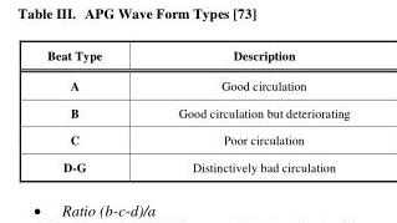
<table><thead><tr><td>Beat Type</td><td>Description</td></tr></thead><tbody><tr><td>A</td><td>Good circulation</td></tr><tr><td>B</td><td>Good circulation but deteriorating</td></tr><tr><td>C</td><td>Poor circulation</td></tr><tr><td>D-G</td><td>Distinctively bad circulation</td></tr></tbody></table>